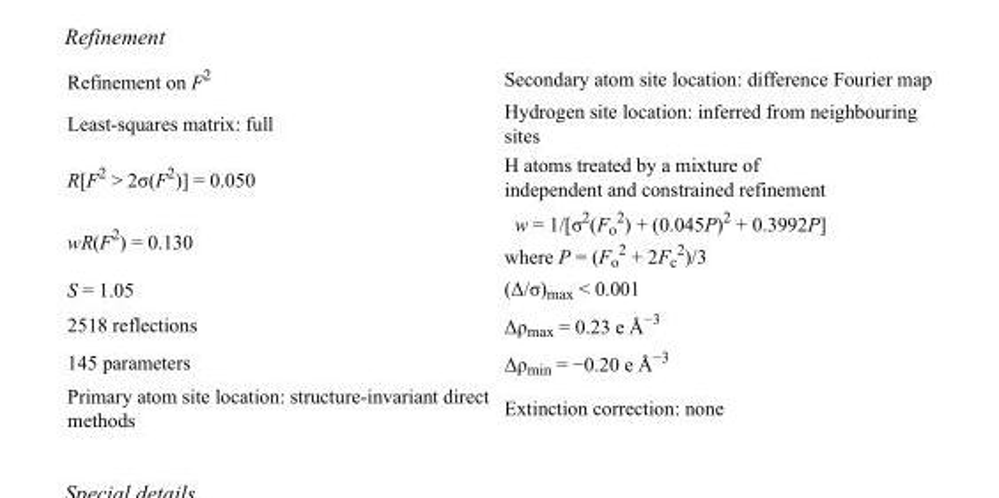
<table><tbody><tr><td>Refinement on F<sup>2</sup></td><td>Secondary atom site location: difference Fourier map</td></tr><tr><td>Least-squares matrix: full</td><td>Hydrogen site location: inferred from neighbouring sites</td></tr><tr><td>R[F<sup>2</sup> &gt; 2σ(F<sup>2</sup>)] = 0.050</td><td>H atoms treated by a mixture of independent and constrained refinement</td></tr><tr><td>wR(F<sup>2</sup>) = 0.130</td><td>w = 1/[σ<sup>2</sup>(F<sub>o</sub> <sup>2</sup>) + (0.045P)<sup>2</sup> + 0.3992P] where P = (F<sub>o</sub> <sup>2</sup> + 2F<sub>c</sub> <sup>2</sup>)/3</td></tr><tr><td>S = 1.05</td><td>(Δ/σ)<sub>max</sub> &lt; 0.001</td></tr><tr><td>2518 reflections</td><td>Δρ<sub>max</sub> = 0.23 e Å<sup>−3</sup></td></tr><tr><td>145 parameters</td><td>Δρ<sub>min</sub> = −0.20 e Å<sup>−3</sup></td></tr><tr><td>Primary atom site location: structure-invariant direct methods</td><td>Extinction correction: none</td></tr></tbody></table>